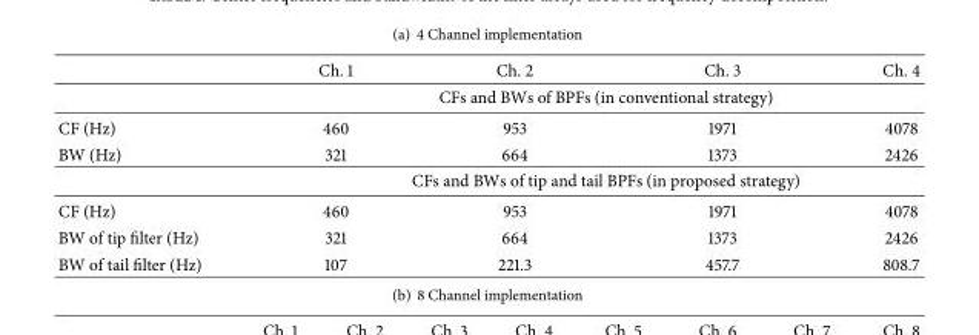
<table><thead><tr><td></td><td>Ch. 1</td><td>Ch. 2</td><td>Ch. 3</td><td>Ch. 4</td></tr></thead><tbody><tr><td></td><td colspan="4">CFs and BWs of BPFs (in conventional strategy)</td></tr><tr><td>CF (Hz)</td><td>460</td><td>953</td><td>1971</td><td>4078</td></tr><tr><td rowspan="2">BW (Hz)</td><td>321</td><td>664</td><td>1373</td><td>2426</td></tr><tr><td colspan="4">CFs and BWs of tip and tail BPFs (in proposed strategy)</td></tr><tr><td>CF (Hz)</td><td>460</td><td>953</td><td>1971</td><td>4078</td></tr><tr><td>BW of tip filter (Hz)</td><td>321</td><td>664</td><td>1373</td><td>2426</td></tr><tr><td>BW of tail filter (Hz)</td><td>107</td><td>221.3</td><td>457.7</td><td>808.7</td></tr></tbody></table>